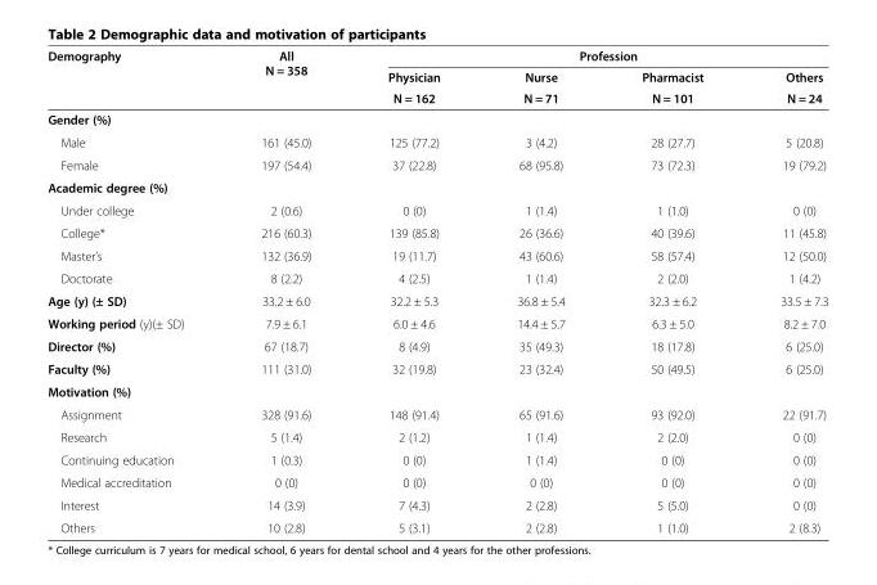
<table><thead><tr><td rowspan="3">Demography</td><td rowspan="3">All N = 358</td><td colspan="4">Profession</td></tr><tr><td rowspan="2">Physician N = 162</td><td rowspan="2">Nurse N = 71</td><td rowspan="2">Pharmacist N = 101</td><td rowspan="2">Others N = 24</td></tr><tr></tr></thead><tbody><tr><td colspan="6">Gender (%)</td></tr><tr><td>Male</td><td>161 (45.0)</td><td>125 (77.2)</td><td>3 (4.2)</td><td>28 (27.7)</td><td>5 (20.8)</td></tr><tr><td>Female</td><td>197 (54.4)</td><td>37 (22.8)</td><td>68 (95.8)</td><td>73 (72.3)</td><td>19 (79.2)</td></tr><tr><td colspan="6">Academic degree (%)</td></tr><tr><td>Under college</td><td>2 (0.6)</td><td>0 (0)</td><td>1 (1.4)</td><td>1 (1.0)</td><td>0 (0)</td></tr><tr><td>College*</td><td>216 (60.3)</td><td>139 (85.8)</td><td>26 (36.6)</td><td>40 (39.6)</td><td>11 (45.8)</td></tr><tr><td>Master’s</td><td>132 (36.9)</td><td>19 (11.7)</td><td>43 (60.6)</td><td>58 (57.4)</td><td>12 (50.0)</td></tr><tr><td>Doctorate</td><td>8 (2.2)</td><td>4 (2.5)</td><td>1 (1.4)</td><td>2 (2.0)</td><td>1 (4.2)</td></tr><tr><td>Age (y) (± SD)</td><td>33.2 ± 6.0</td><td>32.2 ± 5.3</td><td>36.8 ± 5.4</td><td>32.3 ± 6.2</td><td>33.5 ± 7.3</td></tr><tr><td>Working period (y)(± SD)</td><td>7.9 ± 6.1</td><td>6.0 ± 4.6</td><td>14.4 ± 5.7</td><td>6.3 ± 5.0</td><td>8.2 ± 7.0</td></tr><tr><td>Director (%)</td><td>67 (18.7)</td><td>8 (4.9)</td><td>35 (49.3)</td><td>18 (17.8)</td><td>6 (25.0)</td></tr><tr><td>Faculty (%)</td><td>111 (31.0)</td><td>32 (19.8)</td><td>23 (32.4)</td><td>50 (49.5)</td><td>6 (25.0)</td></tr><tr><td colspan="6">Motivation (%)</td></tr><tr><td>Assignment</td><td>328 (91.6)</td><td>148 (91.4)</td><td>65 (91.6)</td><td>93 (92.0)</td><td>22 (91.7)</td></tr><tr><td>Research</td><td>5 (1.4)</td><td>2 (1.2)</td><td>1 (1.4)</td><td>2 (2.0)</td><td>0 (0)</td></tr><tr><td>Continuing education</td><td>1 (0.3)</td><td>0 (0)</td><td>1 (1.4)</td><td>0 (0)</td><td>0 (0)</td></tr><tr><td>Medical accreditation</td><td>0 (0)</td><td>0 (0)</td><td>0 (0)</td><td>0 (0)</td><td>0 (0)</td></tr><tr><td>Interest</td><td>14 (3.9)</td><td>7 (4.3)</td><td>2 (2.8)</td><td>5 (5.0)</td><td>0 (0)</td></tr><tr><td>Others</td><td>10 (2.8)</td><td>5 (3.1)</td><td>2 (2.8)</td><td>1 (1.0)</td><td>2 (8.3)</td></tr></tbody></table>